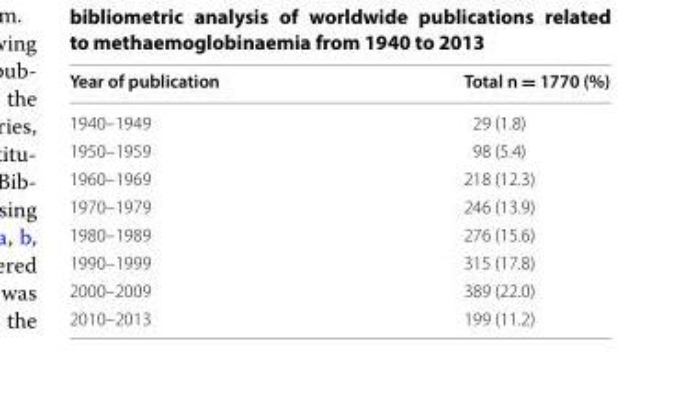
<table><thead><tr><td>Year of publication</td><td>Total n = 1770 (%)</td></tr></thead><tbody><tr><td>1940–1949</td><td>29 (1.8)</td></tr><tr><td>1950–1959</td><td>98 (5.4)</td></tr><tr><td>1960–1969</td><td>218 (12.3)</td></tr><tr><td>1970–1979</td><td>246 (13.9)</td></tr><tr><td>1980–1989</td><td>276 (15.6)</td></tr><tr><td>1990–1999</td><td>315 (17.8)</td></tr><tr><td>2000–2009</td><td>389 (22.0)</td></tr><tr><td>2010–2013</td><td>199 (11.2)</td></tr></tbody></table>